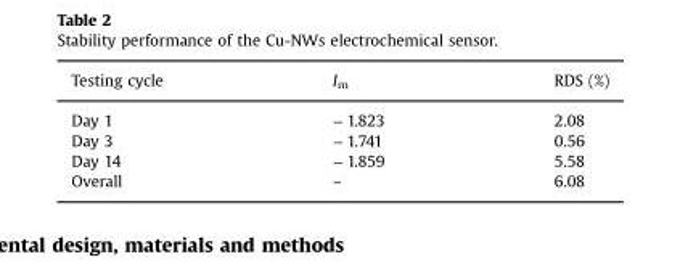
<table><thead><tr><td>Testing cycle</td><td>I<sub>m</sub></td><td>RDS (%)</td></tr></thead><tbody><tr><td>Day 1</td><td>− 1.823</td><td>2.08</td></tr><tr><td>Day 3</td><td>− 1.741</td><td>0.56</td></tr><tr><td>Day 14</td><td>− 1.859</td><td>5.58</td></tr><tr><td>Overall</td><td>–</td><td>6.08</td></tr></tbody></table>